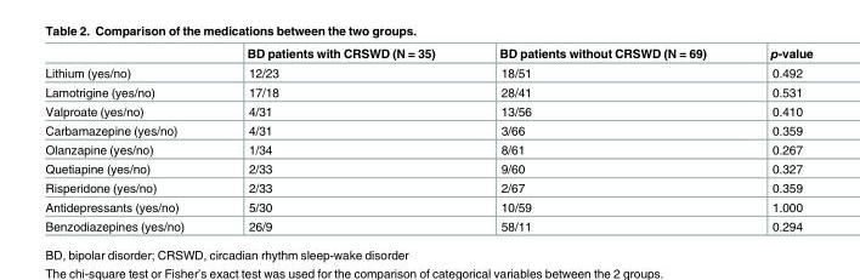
<table><thead><tr><td></td><td>BD patients with CRSWD (N = 35)</td><td>BD patients without CRSWD (N = 69)</td><td>p-value</td></tr></thead><tbody><tr><td>Lithium (yes/no)</td><td>12/23</td><td>18/51</td><td>0.492</td></tr><tr><td>Lamotrigine (yes/no)</td><td>17/18</td><td>28/41</td><td>0.531</td></tr><tr><td>Valproate (yes/no)</td><td>4/31</td><td>13/56</td><td>0.410</td></tr><tr><td>Carbamazepine (yes/no)</td><td>4/31</td><td>3/66</td><td>0.359</td></tr><tr><td>Olanzapine (yes/no)</td><td>1/34</td><td>8/61</td><td>0.267</td></tr><tr><td>Quetiapine (yes/no)</td><td>2/33</td><td>9/60</td><td>0.327</td></tr><tr><td>Risperidone (yes/no)</td><td>2/33</td><td>2/67</td><td>0.359</td></tr><tr><td>Antidepressants (yes/no)</td><td>5/30</td><td>10/59</td><td>1.000</td></tr><tr><td>Benzodiazepines (yes/no)</td><td>26/9</td><td>58/11</td><td>0.294</td></tr></tbody></table>